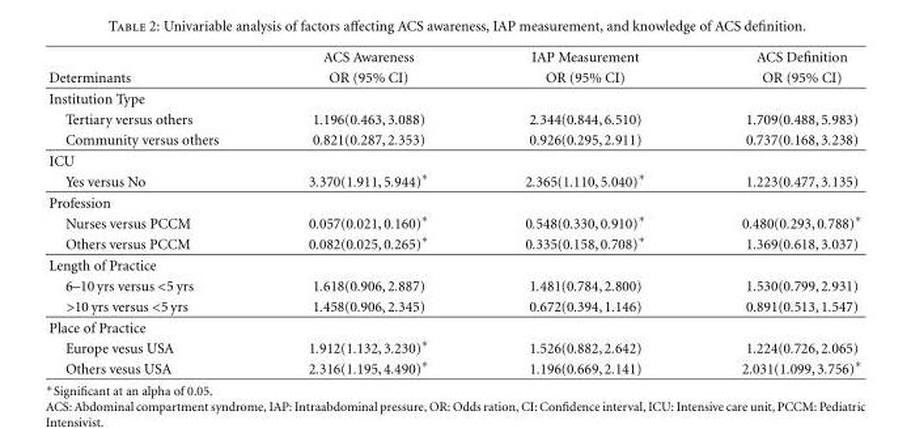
<table><thead><tr><td rowspan="2">Determinants</td><td rowspan="2">ACS Awareness OR (95% CI)</td><td rowspan="2">IAP Measurement OR (95% CI)</td><td rowspan="2">ACS Definition OR (95% CI)</td></tr><tr></tr></thead><tbody><tr><td colspan="4">Institution Type</td></tr><tr><td>Tertiary versus others</td><td>1.196(0.463,3.088)</td><td>2.344(0.844,6.510)</td><td>1.709(0.488,5.983)</td></tr><tr><td>Community versus others</td><td>0.821(0.287,2.353)</td><td>0.926(0.295,2.911)</td><td>0.737(0.168,3.238)</td></tr><tr><td colspan="4">ICU</td></tr><tr><td>Yes versus No</td><td>3.370(1.911,5.944)∗</td><td>2.365(1.110,5.040)∗</td><td>1.223(0.477,3.135)</td></tr><tr><td colspan="4">Profession</td></tr><tr><td>Nurses versus PCCM</td><td>0.057(0.021,0.160)∗</td><td>0.548(0.330,0.910)∗</td><td>0.480(0.293,0.788)∗</td></tr><tr><td>Others versus PCCM</td><td>0.082(0.025,0.265)∗</td><td>0.335(0.158,0.708)∗</td><td>1.369(0.618,3.037)</td></tr><tr><td colspan="4">Length of Practice</td></tr><tr><td>6–10 yrs versus &lt;5 yrs</td><td>1.618(0.906,2.887)</td><td>1.481(0.784,2.800)</td><td>1.530(0.799,2.931)</td></tr><tr><td>&gt;10 yrs versus &lt;5 yrs</td><td>1.458(0.906,2.345)</td><td>0.672(0.394,1.146)</td><td>0.891(0.513,1.547)</td></tr><tr><td colspan="4">Place of Practice</td></tr><tr><td>Europe vesus USA</td><td>1.912(1.132,3.230)∗</td><td>1.526(0.882,2.642)</td><td>1.224(0.726,2.065)</td></tr><tr><td>Others vesus USA</td><td>2.316(1.195,4.490)∗</td><td>1.196(0.669,2.141)</td><td>2.031(1.099,3.756)∗</td></tr></tbody></table>